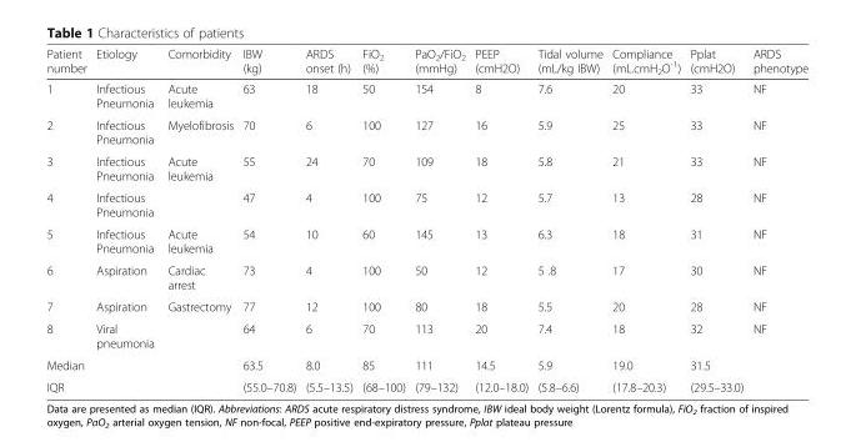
<table><thead><tr><td>Patient number</td><td>Etiology</td><td>Comorbidity</td><td>IBW (kg)</td><td>ARDS onset (h)</td><td>FiO<sub>2</sub> (%)</td><td>PaO<sub>2</sub>/FiO<sub>2</sub> (mmHg)</td><td>PEEP (cmH2O)</td><td>Tidal volume (mL/kg IBW)</td><td>Compliance (mL.cmH<sub>2</sub>O<sup>-1</sup>)</td><td>Pplat (cmH2O)</td><td>ARDS phenotype</td></tr></thead><tbody><tr><td>1</td><td>Infectious Pneumonia</td><td>Acute leukemia</td><td>63</td><td>18</td><td>50</td><td>154</td><td>8</td><td>7.6</td><td>20</td><td>33</td><td>NF</td></tr><tr><td>2</td><td>Infectious Pneumonia</td><td>Myelofibrosis</td><td>70</td><td>6</td><td>100</td><td>127</td><td>16</td><td>5.9</td><td>25</td><td>33</td><td>NF</td></tr><tr><td>3</td><td>Infectious Pneumonia</td><td>Acute leukemia</td><td>55</td><td>24</td><td>70</td><td>109</td><td>18</td><td>5.8</td><td>21</td><td>33</td><td>NF</td></tr><tr><td>4</td><td>Infectious Pneumonia</td><td></td><td>47</td><td>4</td><td>100</td><td>75</td><td>12</td><td>5.7</td><td>13</td><td>28</td><td>NF</td></tr><tr><td>5</td><td>Infectious Pneumonia</td><td>Acute leukemia</td><td>54</td><td>10</td><td>60</td><td>145</td><td>13</td><td>6.3</td><td>18</td><td>31</td><td>NF</td></tr><tr><td>6</td><td>Aspiration</td><td>Cardiac arrest</td><td>73</td><td>4</td><td>100</td><td>50</td><td>12</td><td>5 .8</td><td>17</td><td>30</td><td>NF</td></tr><tr><td>7</td><td>Aspiration</td><td>Gastrectomy</td><td>77</td><td>12</td><td>100</td><td>80</td><td>18</td><td>5.5</td><td>20</td><td>28</td><td>NF</td></tr><tr><td>8</td><td>Viral pneumonia</td><td></td><td>64</td><td>6</td><td>70</td><td>113</td><td>20</td><td>7.4</td><td>18</td><td>32</td><td>NF</td></tr><tr><td>Median</td><td></td><td></td><td>63.5</td><td>8.0</td><td>85</td><td>111</td><td>14.5</td><td>5.9</td><td>19.0</td><td>31.5</td><td></td></tr><tr><td>IQR</td><td></td><td></td><td>(55.0–70.8)</td><td>(5.5–13.5)</td><td>(68–100)</td><td>(79–132)</td><td>(12.0–18.0)</td><td>(5.8–6.6)</td><td>(17.8–20.3)</td><td>(29.5–33.0)</td><td></td></tr></tbody></table>